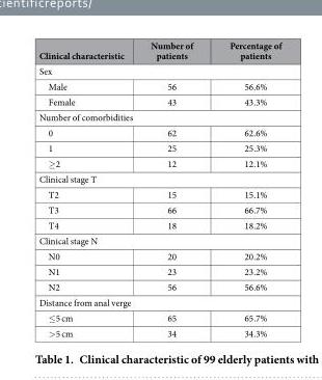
<table><thead><tr><td>Clinical characteristic</td><td>Number of patients</td><td>Percentage of patients</td></tr></thead><tbody><tr><td colspan="3">Sex</td></tr><tr><td>Male</td><td>56</td><td>56.6%</td></tr><tr><td>Female</td><td>43</td><td>43.3%</td></tr><tr><td colspan="3">Number of comorbidities</td></tr><tr><td>0</td><td>62</td><td>62.6%</td></tr><tr><td>1</td><td>25</td><td>25.3%</td></tr><tr><td>≥ 2</td><td>12</td><td>12.1%</td></tr><tr><td colspan="3">Clinical stage T</td></tr><tr><td>T2</td><td>15</td><td>15.1%</td></tr><tr><td>T3</td><td>66</td><td>66.7%</td></tr><tr><td>T4</td><td>18</td><td>18.2%</td></tr><tr><td colspan="3">Clinical stage N</td></tr><tr><td>N0</td><td>20</td><td>20.2%</td></tr><tr><td>N1</td><td>23</td><td>23.2%</td></tr><tr><td>N2</td><td>56</td><td>56.6%</td></tr><tr><td colspan="3">Distance from anal verge</td></tr><tr><td>≤ 5 cm</td><td>65</td><td>65.7%</td></tr><tr><td>&gt; 5 cm</td><td>34</td><td>34.3%</td></tr></tbody></table>